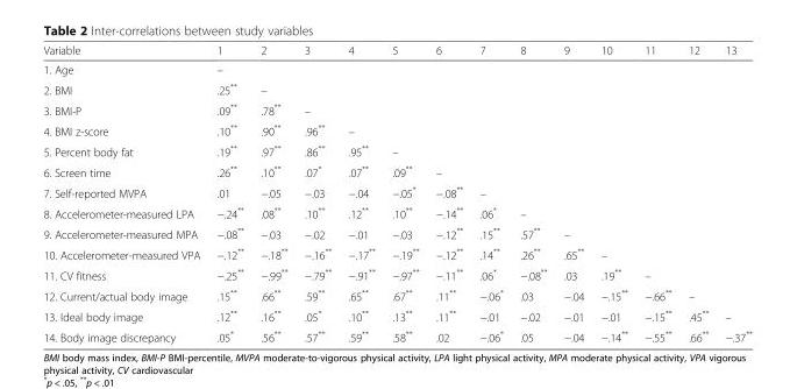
<table><thead><tr><td>Variable</td><td>1</td><td>2</td><td>3</td><td>4</td><td>5</td><td>6</td><td>7</td><td>8</td><td>9</td><td>10</td><td>11</td><td>12</td><td>13</td></tr></thead><tbody><tr><td>1. Age</td><td>–</td><td></td><td></td><td></td><td></td><td></td><td></td><td></td><td></td><td></td><td></td><td></td><td></td></tr><tr><td>2. BMI</td><td>.25**</td><td>–</td><td></td><td></td><td></td><td></td><td></td><td></td><td></td><td></td><td></td><td></td><td></td></tr><tr><td>3. BMI-P</td><td>.09**</td><td>.78**</td><td>–</td><td></td><td></td><td></td><td></td><td></td><td></td><td></td><td></td><td></td><td></td></tr><tr><td>4. BMI z-score</td><td>.10**</td><td>.90**</td><td>.96**</td><td>–</td><td></td><td></td><td></td><td></td><td></td><td></td><td></td><td></td><td></td></tr><tr><td>5. Percent body fat</td><td>.19**</td><td>.97**</td><td>.86**</td><td>.95**</td><td>–</td><td></td><td></td><td></td><td></td><td></td><td></td><td></td><td></td></tr><tr><td>6. Screen time</td><td>.26**</td><td>.10**</td><td>.07*</td><td>.07**</td><td>.09**</td><td>–</td><td></td><td></td><td></td><td></td><td></td><td></td><td></td></tr><tr><td>7. Self-reported MVPA</td><td>.01</td><td>−.05</td><td>−.03</td><td>−.04</td><td>−.05*</td><td>−.08**</td><td>–</td><td></td><td></td><td></td><td></td><td></td><td></td></tr><tr><td>8. Accelerometer-measured LPA</td><td>−.24**</td><td>.08**</td><td>.10**</td><td>.12**</td><td>.10**</td><td>−.14**</td><td>.06*</td><td>–</td><td></td><td></td><td></td><td></td><td></td></tr><tr><td>9. Accelerometer-measured MPA</td><td>−.08**</td><td>−.03</td><td>−.02</td><td>−.01</td><td>−.03</td><td>−.12**</td><td>.15**</td><td>.57**</td><td>–</td><td></td><td></td><td></td><td></td></tr><tr><td>10. Accelerometer-measured VPA</td><td>−.12**</td><td>−.18**</td><td>−.16**</td><td>−.17**</td><td>−.19**</td><td>−.12**</td><td>.14**</td><td>.26**</td><td>.65**</td><td>–</td><td></td><td></td><td></td></tr><tr><td>11. CV fitness</td><td>−.25**</td><td>−.99**</td><td>−.79**</td><td>−.91**</td><td>−.97**</td><td>−.11**</td><td>.06*</td><td>−.08**</td><td>.03</td><td>.19**</td><td>–</td><td></td><td></td></tr><tr><td>12. Current/actual body image</td><td>.15**</td><td>.66**</td><td>.59**</td><td>.65**</td><td>.67**</td><td>.11**</td><td>−.06*</td><td>.03</td><td>−.04</td><td>−.15**</td><td>−.66**</td><td>–</td><td></td></tr><tr><td>13. Ideal body image</td><td>.12**</td><td>.16**</td><td>.05*</td><td>.10**</td><td>.13**</td><td>.11**</td><td>−.01</td><td>−.02</td><td>−.01</td><td>−.01</td><td>−.15**</td><td>.45**</td><td>–</td></tr><tr><td>14. Body image discrepancy</td><td>.05*</td><td>.56**</td><td>.57**</td><td>.59**</td><td>.58**</td><td>.02</td><td>−.06*</td><td>.05</td><td>−.04</td><td>−.14**</td><td>−.55**</td><td>.66**</td><td>−.37**</td></tr></tbody></table>